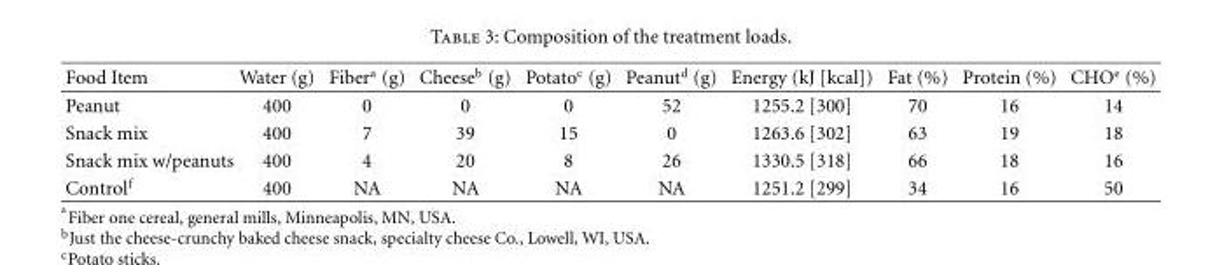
<table><thead><tr><td>Food Item</td><td>Water (g)</td><td>Fiber<sup>a</sup> (g)</td><td>Cheese<sup>b</sup> (g)</td><td>Potato<sup>c</sup> (g)</td><td>Peanut<sup>d</sup> (g)</td><td>Energy (kJ [kcal])</td><td>Fat (%)</td><td>Protein (%)</td><td>CHO<sup>e</sup> (%)</td></tr></thead><tbody><tr><td>Peanut</td><td>400</td><td>0</td><td>0</td><td>0</td><td>52</td><td>1255.2 [300]</td><td>70</td><td>16</td><td>14</td></tr><tr><td>Snack mix</td><td>400</td><td>7</td><td>39</td><td>15</td><td>0</td><td>1263.6 [302]</td><td>63</td><td>19</td><td>18</td></tr><tr><td>Snack mix w/peanuts</td><td>400</td><td>4</td><td>20</td><td>8</td><td>26</td><td>1330.5 [318]</td><td>66</td><td>18</td><td>16</td></tr><tr><td>Control<sup>f</sup></td><td>400</td><td>NA</td><td>NA</td><td>NA</td><td>NA</td><td>1251.2 [299]</td><td>34</td><td>16</td><td>50</td></tr></tbody></table>